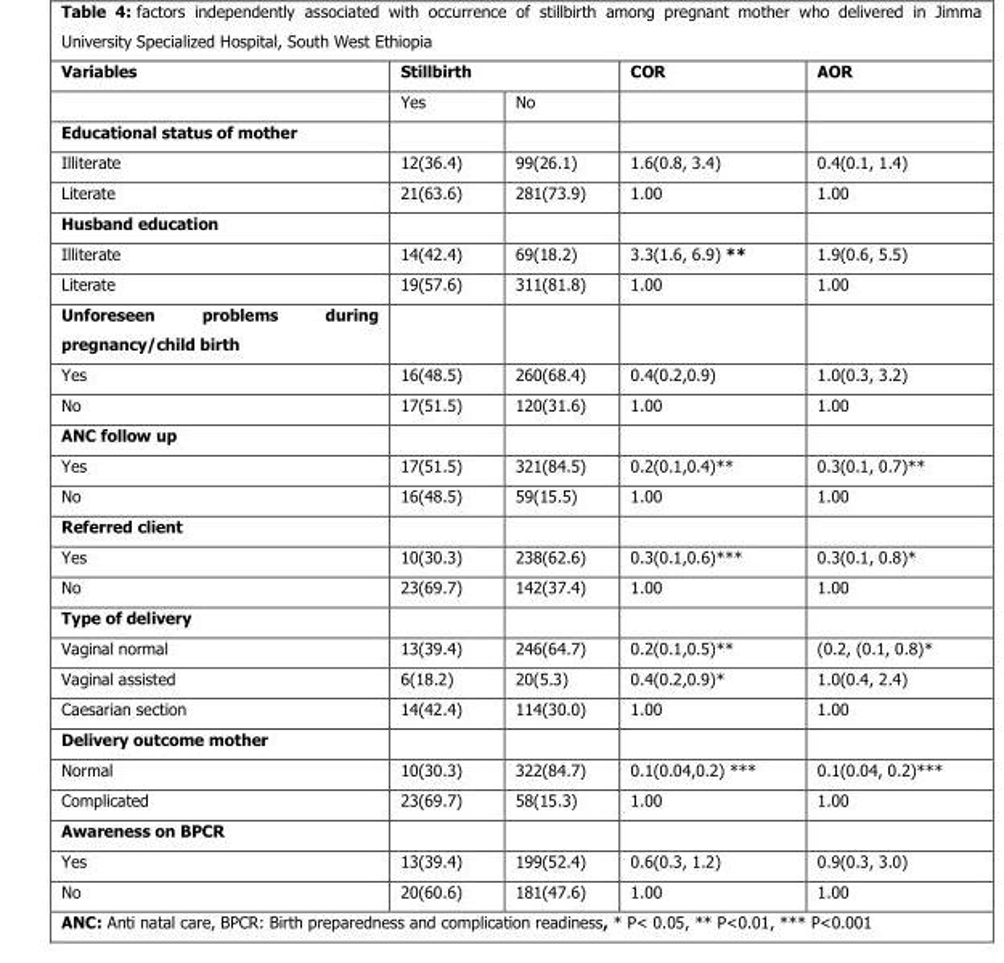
<table><thead><tr><td rowspan="2">Variables</td><td colspan="2">Stillbirth</td><td rowspan="2">COR</td><td rowspan="2">AOR</td></tr><tr><td>Yes</td><td>No</td></tr></thead><tbody><tr><td colspan="5">Educational status of mother</td></tr><tr><td>Illiterate</td><td>12(36.4)</td><td>99(26.1)</td><td>1.6(0.8, 3.4)</td><td>0.4(0.1, 1.4)</td></tr><tr><td>Literate</td><td>21(63.6)</td><td>281(73.9)</td><td>1.00</td><td>1.00</td></tr><tr><td colspan="5">Husband education</td></tr><tr><td>Illiterate</td><td>14(42.4)</td><td>69(18.2)</td><td>3.3(1.6, 6.9) **</td><td>1.9(0.6, 5.5)</td></tr><tr><td>Literate</td><td>19(57.6)</td><td>311(81.8)</td><td>1.00</td><td>1.00</td></tr><tr><td colspan="5">Unforeseen problems during pregnancy/child birth</td></tr><tr><td>Yes</td><td>16(48.5)</td><td>260(68.4)</td><td>0.4(0.2,0.9)</td><td>1.0(0.3, 3.2)</td></tr><tr><td>No</td><td>17(51.5)</td><td>120(31.6)</td><td>1.00</td><td>1.00</td></tr><tr><td colspan="5">ANC follow up</td></tr><tr><td>Yes</td><td>17(51.5)</td><td>321(84.5)</td><td>0.2(0.1,0.4)**</td><td>0.3(0.1, 0.7)**</td></tr><tr><td>No</td><td>16(48.5)</td><td>59(15.5)</td><td>1.00</td><td>1.00</td></tr><tr><td colspan="5">Referred client</td></tr><tr><td>Yes</td><td>10(30.3)</td><td>238(62.6)</td><td>0.3(0.1,0.6)***</td><td>0.3(0.1, 0.8)*</td></tr><tr><td>No</td><td>23(69.7)</td><td>142(37.4)</td><td>1.00</td><td>1.00</td></tr><tr><td colspan="5">Type of delivery</td></tr><tr><td>Vaginal normal</td><td>13(39.4)</td><td>246(64.7)</td><td>0.2(0.1,0.5)**</td><td>(0.2, (0.1, 0.8)*</td></tr><tr><td>Vaginal assisted</td><td>6(18.2)</td><td>20(5.3)</td><td>0.4(0.2,0.9)*</td><td>1.0(0.4, 2.4)</td></tr><tr><td>Caesarian section</td><td>14(42.4)</td><td>114(30.0)</td><td>1.00</td><td>1.00</td></tr><tr><td colspan="5">Delivery outcome mother</td></tr><tr><td>Normal</td><td>10(30.3)</td><td>322(84.7)</td><td>0.1(0.04,0.2) ***</td><td>0.1(0.04, 0.2)***</td></tr><tr><td>Complicated</td><td>23(69.7)</td><td>58(15.3)</td><td>1.00</td><td>1.00</td></tr><tr><td colspan="5">Awareness on BPCR</td></tr><tr><td>Yes</td><td>13(39.4)</td><td>199(52.4)</td><td>0.6(0.3, 1.2)</td><td>0.9(0.3, 3.0)</td></tr><tr><td>No</td><td>20(60.6)</td><td>181(47.6)</td><td>1.00</td><td>1.00</td></tr></tbody></table>